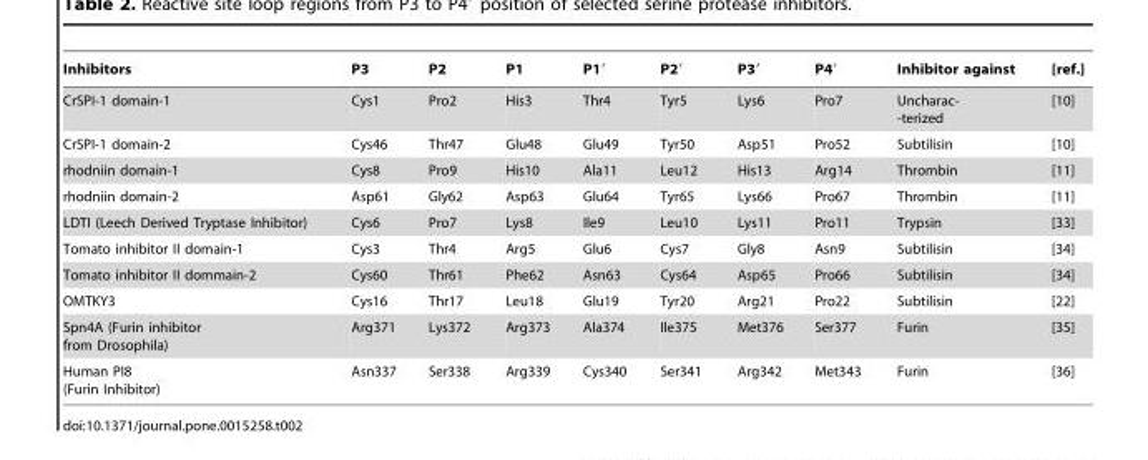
<table><thead><tr><td>Inhibitors</td><td>P3</td><td>P2</td><td>P1</td><td>P1′</td><td>P2′</td><td>P3′</td><td>P4′</td><td>Inhibitor against</td><td>[ref.]</td></tr></thead><tbody><tr><td>CrSPI-1 domain-1</td><td>Cys1</td><td>Pro2</td><td>His3</td><td>Thr4</td><td>Tyr5</td><td>Lys6</td><td>Pro7</td><td>Uncharac- -terized</td><td>[10]</td></tr><tr><td>CrSPI-1 domain-2</td><td>Cys46</td><td>Thr47</td><td>Glu48</td><td>Glu49</td><td>Tyr50</td><td>Asp51</td><td>Pro52</td><td>Subtilisin</td><td>[10]</td></tr><tr><td>rhodniin domain-1</td><td>Cys8</td><td>Pro9</td><td>His10</td><td>Ala11</td><td>Leu12</td><td>His13</td><td>Arg14</td><td>Thrombin</td><td>[11]</td></tr><tr><td>rhodniin domain-2</td><td>Asp61</td><td>Gly62</td><td>Asp63</td><td>Glu64</td><td>Tyr65</td><td>Lys66</td><td>Pro67</td><td>Thrombin</td><td>[11]</td></tr><tr><td>LDTI (Leech Derived Tryptase Inhibitor)</td><td>Cys6</td><td>Pro7</td><td>Lys8</td><td>Ile9</td><td>Leu10</td><td>Lys11</td><td>Pro11</td><td>Trypsin</td><td>[33]</td></tr><tr><td>Tomato inhibitor II domain-1</td><td>Cys3</td><td>Thr4</td><td>Arg5</td><td>Glu6</td><td>Cys7</td><td>Gly8</td><td>Asn9</td><td>Subtilisin</td><td>[34]</td></tr><tr><td>Tomato inhibitor II dommain-2</td><td>Cys60</td><td>Thr61</td><td>Phe62</td><td>Asn63</td><td>Cys64</td><td>Asp65</td><td>Pro66</td><td>Subtilisin</td><td>[34]</td></tr><tr><td>OMTKY3</td><td>Cys16</td><td>Thr17</td><td>Leu18</td><td>Glu19</td><td>Tyr20</td><td>Arg21</td><td>Pro22</td><td>Subtilisin</td><td>[22]</td></tr><tr><td>Spn4A (Furin inhibitor from Drosophila)</td><td>Arg371</td><td>Lys372</td><td>Arg373</td><td>Ala374</td><td>Ile375</td><td>Met376</td><td>Ser377</td><td>Furin</td><td>[35]</td></tr><tr><td>Human PI8 (Furin Inhibitor)</td><td>Asn337</td><td>Ser338</td><td>Arg339</td><td>Cys340</td><td>Ser341</td><td>Arg342</td><td>Met343</td><td>Furin</td><td>[36]</td></tr></tbody></table>